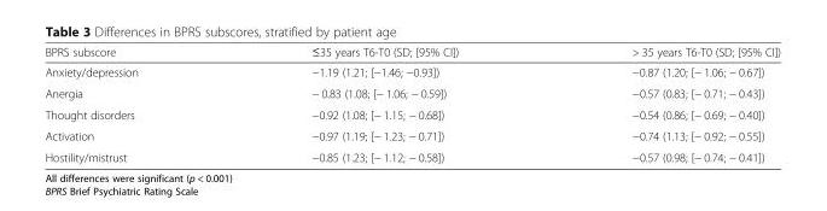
<table><thead><tr><td>BPRS subscore</td><td>≤35 years T6-T0 (SD; [95% CI])</td><td>&gt; 35 years T6-T0 (SD; [95% CI])</td></tr></thead><tbody><tr><td>Anxiety/depression</td><td>−1.19 (1.21; [−1.46; −0.93])</td><td>−0.87 (1.20; [− 1.06; − 0.67])</td></tr><tr><td>Anergia</td><td>− 0.83 (1.08; [− 1.06; − 0.59])</td><td>−0.57 (0.83; [− 0.71; − 0.43])</td></tr><tr><td>Thought disorders</td><td>−0.92 (1.08; [− 1.15; − 0.68])</td><td>−0.54 (0.86; [− 0.69; − 0.40])</td></tr><tr><td>Activation</td><td>−0.97 (1.19; [− 1.23; − 0.71])</td><td>−0.74 (1.13; [− 0.92; − 0.55])</td></tr><tr><td>Hostility/mistrust</td><td>−0.85 (1.23; [− 1.12; − 0.58])</td><td>−0.57 (0.98; [− 0.74; − 0.41])</td></tr></tbody></table>